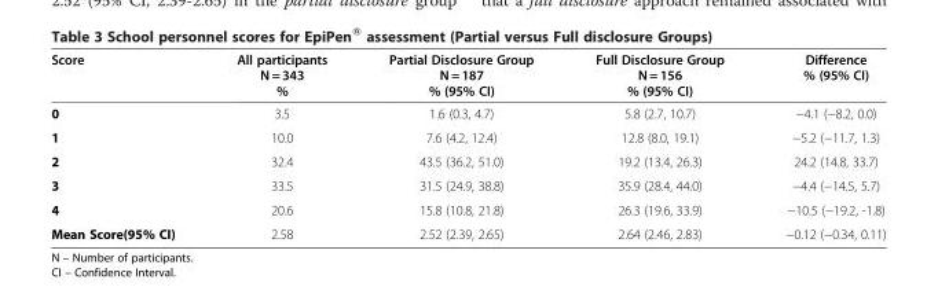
<table><thead><tr><td>Score</td><td>All participants N = 343 %</td><td>Partial Disclosure Group N = 187 % (95% CI)</td><td>Full Disclosure Group N = 156 % (95% CI)</td><td>Difference % (95% CI)</td></tr></thead><tbody><tr><td>0</td><td>3.5</td><td>1.6 (0.3, 4.7)</td><td>5.8 (2.7, 10.7)</td><td>−4.1 (−8.2, 0.0)</td></tr><tr><td>1</td><td>10.0</td><td>7.6 (4.2, 12.4)</td><td>12.8 (8.0, 19.1)</td><td>−5.2 (−11.7, 1.3)</td></tr><tr><td>2</td><td>32.4</td><td>43.5 (36.2, 51.0)</td><td>19.2 (13.4, 26.3)</td><td>24.2 (14.8, 33.7)</td></tr><tr><td>3</td><td>33.5</td><td>31.5 (24.9, 38.8)</td><td>35.9 (28.4, 44.0)</td><td>−4.4 (−14.5, 5.7)</td></tr><tr><td>4</td><td>20.6</td><td>15.8 (10.8, 21.8)</td><td>26.3 (19.6, 33.9)</td><td>−10.5 (−19.2, -1.8)</td></tr><tr><td>Mean Score(95% CI)</td><td>2.58</td><td>2.52 (2.39, 2.65)</td><td>2.64 (2.46, 2.83)</td><td>−0.12 (−0.34, 0.11)</td></tr></tbody></table>